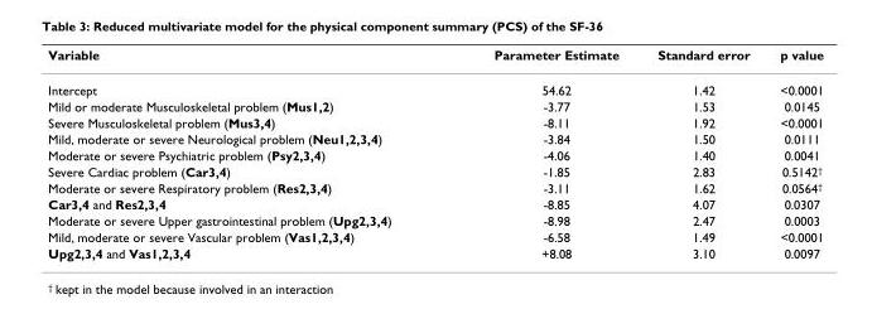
<table><thead><tr><td>Variable</td><td>Parameter Estimate</td><td>Standard error</td><td>p value</td></tr></thead><tbody><tr><td>Intercept</td><td>54.62</td><td>1.42</td><td>&lt;0.0001</td></tr><tr><td>Mild or moderate Musculoskeletal problem (Mus1,2)</td><td>-3.77</td><td>1.53</td><td>0.0145</td></tr><tr><td>Severe Musculoskeletal problem (Mus3,4)</td><td>-8.11</td><td>1.92</td><td>&lt;0.0001</td></tr><tr><td>Mild, moderate or severe Neurological problem (Neu1,2,3,4)</td><td>-3.84</td><td>1.50</td><td>0.0111</td></tr><tr><td>Moderate or severe Psychiatric problem (Psy2,3,4)</td><td>-4.06</td><td>1.40</td><td>0.0041</td></tr><tr><td>Severe Cardiac problem (Car3,4)</td><td>-1.85</td><td>2.83</td><td>0.5142<sup>†</sup></td></tr><tr><td>Moderate or severe Respiratory problem (Res2,3,4)</td><td>-3.11</td><td>1.62</td><td>0.0564<sup>†</sup></td></tr><tr><td>Car3,4 and Res2,3,4</td><td>-8.85</td><td>4.07</td><td>0.0307</td></tr><tr><td>Moderate or severe Upper gastrointestinal problem (Upg2,3,4)</td><td>-8.98</td><td>2.47</td><td>0.0003</td></tr><tr><td>Mild, moderate or severe Vascular problem (Vas1,2,3,4)</td><td>-6.58</td><td>1.49</td><td>&lt;0.0001</td></tr><tr><td>Upg2,3,4 and Vas1,2,3,4</td><td>+8.08</td><td>3.10</td><td>0.0097</td></tr></tbody></table>